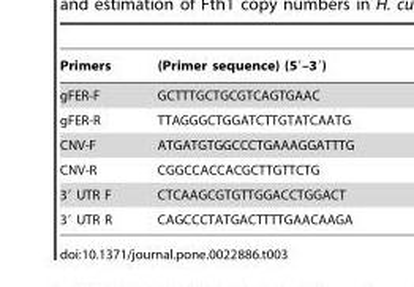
<table><thead><tr><td>Primers</td><td>(Primer sequence) (5′–3′)</td></tr></thead><tbody><tr><td>gFER-F</td><td>GCTTTGCTGCGTCAGTGAAC</td></tr><tr><td>gFER-R</td><td>TTAGGGCTGGATCTTGTATCAATG</td></tr><tr><td>CNV-F</td><td>ATGATGTGGCCCTGAAAGGATTTG</td></tr><tr><td>CNV-R</td><td>CGGCCACCACGCTTGTTCTG</td></tr><tr><td>3′ UTR F</td><td>CTCAAGCGTGTTGGACCTGGACT</td></tr><tr><td>3′ UTR R</td><td>CAGCCCTATGACTTTTGAACAAGA</td></tr></tbody></table>